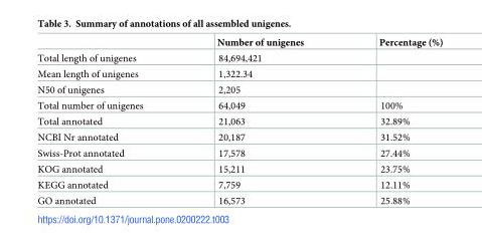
<table><thead><tr><td></td><td>Number of unigenes</td><td>Percentage (%)</td></tr></thead><tbody><tr><td>Total length of unigenes</td><td>84,694,421</td><td></td></tr><tr><td>Mean length of unigenes</td><td>1,322.34</td><td></td></tr><tr><td>N50 of unigenes</td><td>2,205</td><td></td></tr><tr><td>Total number of unigenes</td><td>64,049</td><td>100%</td></tr><tr><td>Total annotated</td><td>21,063</td><td>32.89%</td></tr><tr><td>NCBI Nr annotated</td><td>20,187</td><td>31.52%</td></tr><tr><td>Swiss-Prot annotated</td><td>17,578</td><td>27.44%</td></tr><tr><td>KOG annotated</td><td>15,211</td><td>23.75%</td></tr><tr><td>KEGG annotated</td><td>7,759</td><td>12.11%</td></tr><tr><td>GO annotated</td><td>16,573</td><td>25.88%</td></tr></tbody></table>